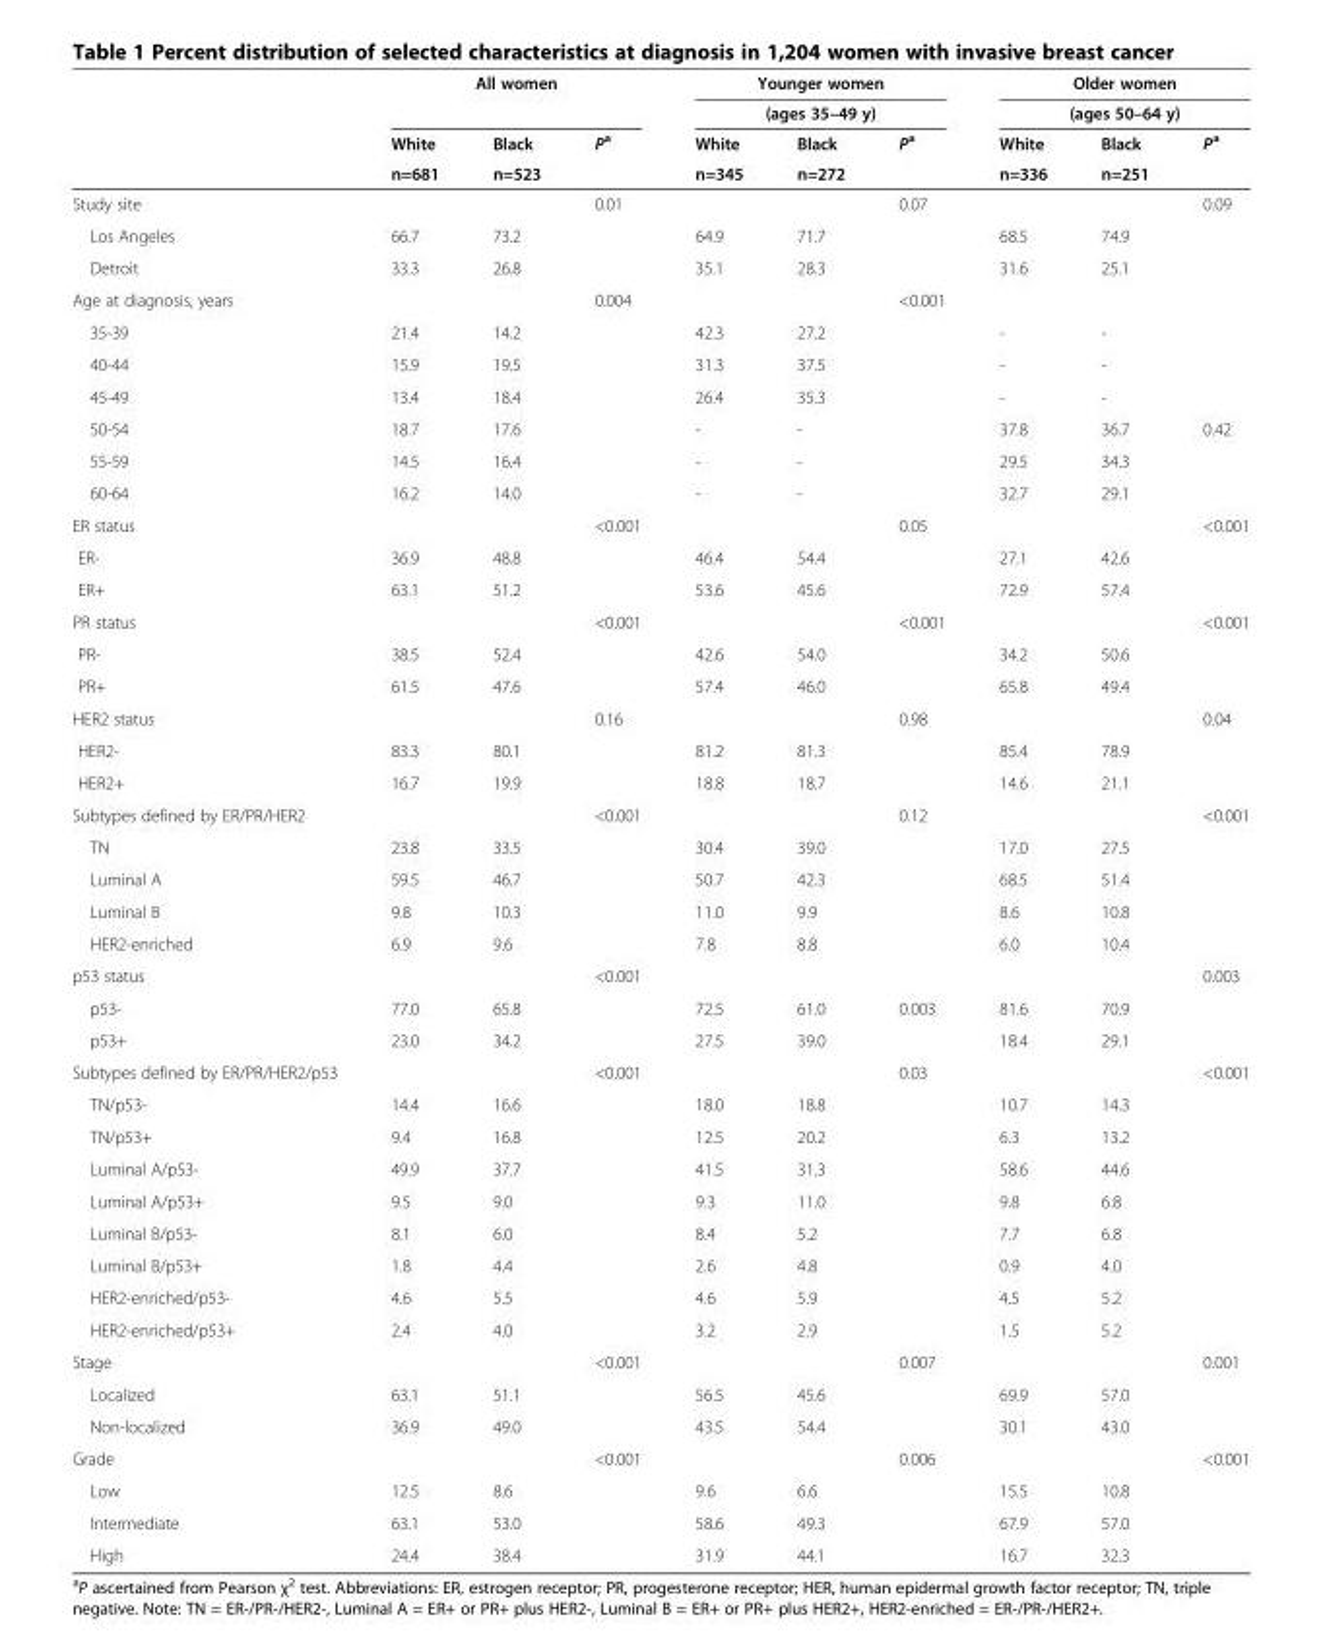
<table><thead><tr><td rowspan="4"></td><td rowspan="2" colspan="3">All women</td><td rowspan="2" colspan="3">Younger women (ages 35–49 y)</td><td rowspan="2" colspan="3">Older women (ages 50–64 y)</td></tr><tr></tr><tr><td rowspan="2">White n=681</td><td rowspan="2">Black n=523</td><td rowspan="2">P<sup>a</sup></td><td rowspan="2">White n=345</td><td rowspan="2">Black n=272</td><td rowspan="2">P<sup>a</sup></td><td rowspan="2">White n=336</td><td rowspan="2">Black n=251</td><td rowspan="2">P<sup>a</sup></td></tr><tr></tr></thead><tbody><tr><td>Study site</td><td></td><td></td><td>0.01</td><td></td><td></td><td>0.07</td><td></td><td></td><td>0.09</td></tr><tr><td>Los Angeles</td><td>66.7</td><td>73.2</td><td></td><td>64.9</td><td>71.7</td><td></td><td>68.5</td><td>74.9</td><td></td></tr><tr><td>Detroit</td><td>33.3</td><td>26.8</td><td></td><td>35.1</td><td>28.3</td><td></td><td>31.6</td><td>25.1</td><td></td></tr><tr><td>Age at diagnosis, years</td><td></td><td></td><td>0.004</td><td></td><td></td><td>&lt;0.001</td><td></td><td></td><td></td></tr><tr><td>35-39</td><td>21.4</td><td>14.2</td><td></td><td>42.3</td><td>27.2</td><td></td><td>-</td><td>-</td><td></td></tr><tr><td>40-44</td><td>15.9</td><td>19.5</td><td></td><td>31.3</td><td>37.5</td><td></td><td>-</td><td>-</td><td></td></tr><tr><td>45-49</td><td>13.4</td><td>18.4</td><td></td><td>26.4</td><td>35.3</td><td></td><td>-</td><td>-</td><td></td></tr><tr><td>50-54</td><td>18.7</td><td>17.6</td><td></td><td>-</td><td>-</td><td></td><td>37.8</td><td>36.7</td><td>0.42</td></tr><tr><td>55-59</td><td>14.5</td><td>16.4</td><td></td><td>-</td><td>-</td><td></td><td>29.5</td><td>34.3</td><td></td></tr><tr><td>60-64</td><td>16.2</td><td>14.0</td><td></td><td>-</td><td>-</td><td></td><td>32.7</td><td>29.1</td><td></td></tr><tr><td>ER status</td><td></td><td></td><td>&lt;0.001</td><td></td><td></td><td>0.05</td><td></td><td></td><td>&lt;0.001</td></tr><tr><td>ER-</td><td>36.9</td><td>48.8</td><td></td><td>46.4</td><td>54.4</td><td></td><td>27.1</td><td>42.6</td><td></td></tr><tr><td>ER+</td><td>63.1</td><td>51.2</td><td></td><td>53.6</td><td>45.6</td><td></td><td>72.9</td><td>57.4</td><td></td></tr><tr><td>PR status</td><td></td><td></td><td>&lt;0.001</td><td></td><td></td><td>&lt;0.001</td><td></td><td></td><td>&lt;0.001</td></tr><tr><td>PR-</td><td>38.5</td><td>52.4</td><td></td><td>42.6</td><td>54.0</td><td></td><td>34.2</td><td>50.6</td><td></td></tr><tr><td>PR+</td><td>61.5</td><td>47.6</td><td></td><td>57.4</td><td>46.0</td><td></td><td>65.8</td><td>49.4</td><td></td></tr><tr><td>HER2 status</td><td></td><td></td><td>0.16</td><td></td><td></td><td>0.98</td><td></td><td></td><td>0.04</td></tr><tr><td>HER2-</td><td>83.3</td><td>80.1</td><td></td><td>81.2</td><td>81.3</td><td></td><td>85.4</td><td>78.9</td><td></td></tr><tr><td>HER2+</td><td>16.7</td><td>19.9</td><td></td><td>18.8</td><td>18.7</td><td></td><td>14.6</td><td>21.1</td><td></td></tr><tr><td>Subtypes defined by ER/PR/HER2</td><td></td><td></td><td>&lt;0.001</td><td></td><td></td><td>0.12</td><td></td><td></td><td>&lt;0.001</td></tr><tr><td>TN</td><td>23.8</td><td>33.5</td><td></td><td>30.4</td><td>39.0</td><td></td><td>17.0</td><td>27.5</td><td></td></tr><tr><td>Luminal A</td><td>59.5</td><td>46.7</td><td></td><td>50.7</td><td>42.3</td><td></td><td>68.5</td><td>51.4</td><td></td></tr><tr><td>Luminal B</td><td>9.8</td><td>10.3</td><td></td><td>11.0</td><td>9.9</td><td></td><td>8.6</td><td>10.8</td><td></td></tr><tr><td>HER2-enriched</td><td>6.9</td><td>9.6</td><td></td><td>7.8</td><td>8.8</td><td></td><td>6.0</td><td>10.4</td><td></td></tr><tr><td>p53 status</td><td></td><td></td><td>&lt;0.001</td><td></td><td></td><td></td><td></td><td></td><td>0.003</td></tr><tr><td>p53-</td><td>77.0</td><td>65.8</td><td></td><td>72.5</td><td>61.0</td><td>0.003</td><td>81.6</td><td>70.9</td><td></td></tr><tr><td>p53+</td><td>23.0</td><td>34.2</td><td></td><td>27.5</td><td>39.0</td><td></td><td>18.4</td><td>29.1</td><td></td></tr><tr><td>Subtypes defined by ER/PR/HER2/p53</td><td></td><td></td><td>&lt;0.001</td><td></td><td></td><td>0.03</td><td></td><td></td><td>&lt;0.001</td></tr><tr><td>TN/p53-</td><td>14.4</td><td>16.6</td><td></td><td>18.0</td><td>18.8</td><td></td><td>10.7</td><td>14.3</td><td></td></tr><tr><td>TN/p53+</td><td>9.4</td><td>16.8</td><td></td><td>12.5</td><td>20.2</td><td></td><td>6.3</td><td>13.2</td><td></td></tr><tr><td>Luminal A/p53-</td><td>49.9</td><td>37.7</td><td></td><td>41.5</td><td>31.3</td><td></td><td>58.6</td><td>44.6</td><td></td></tr><tr><td>Luminal A/p53+</td><td>9.5</td><td>9.0</td><td></td><td>9.3</td><td>11.0</td><td></td><td>9.8</td><td>6.8</td><td></td></tr><tr><td>Luminal B/p53-</td><td>8.1</td><td>6.0</td><td></td><td>8.4</td><td>5.2</td><td></td><td>7.7</td><td>6.8</td><td></td></tr><tr><td>Luminal B/p53+</td><td>1.8</td><td>4.4</td><td></td><td>2.6</td><td>4.8</td><td></td><td>0.9</td><td>4.0</td><td></td></tr><tr><td>HER2-enriched/p53-</td><td>4.6</td><td>5.5</td><td></td><td>4.6</td><td>5.9</td><td></td><td>4.5</td><td>5.2</td><td></td></tr><tr><td>HER2-enriched/p53+</td><td>2.4</td><td>4.0</td><td></td><td>3.2</td><td>2.9</td><td></td><td>1.5</td><td>5.2</td><td></td></tr><tr><td>Stage</td><td></td><td></td><td>&lt;0.001</td><td></td><td></td><td>0.007</td><td></td><td></td><td>0.001</td></tr><tr><td>Localized</td><td>63.1</td><td>51.1</td><td></td><td>56.5</td><td>45.6</td><td></td><td>69.9</td><td>57.0</td><td></td></tr><tr><td>Non-localized</td><td>36.9</td><td>49.0</td><td></td><td>43.5</td><td>54.4</td><td></td><td>30.1</td><td>43.0</td><td></td></tr><tr><td>Grade</td><td></td><td></td><td>&lt;0.001</td><td></td><td></td><td>0.006</td><td></td><td></td><td>&lt;0.001</td></tr><tr><td>Low</td><td>12.5</td><td>8.6</td><td></td><td>9.6</td><td>6.6</td><td></td><td>15.5</td><td>10.8</td><td></td></tr><tr><td>Intermediate</td><td>63.1</td><td>53.0</td><td></td><td>58.6</td><td>49.3</td><td></td><td>67.9</td><td>57.0</td><td></td></tr><tr><td>High</td><td>24.4</td><td>38.4</td><td></td><td>31.9</td><td>44.1</td><td></td><td>16.7</td><td>32.3</td><td></td></tr></tbody></table>